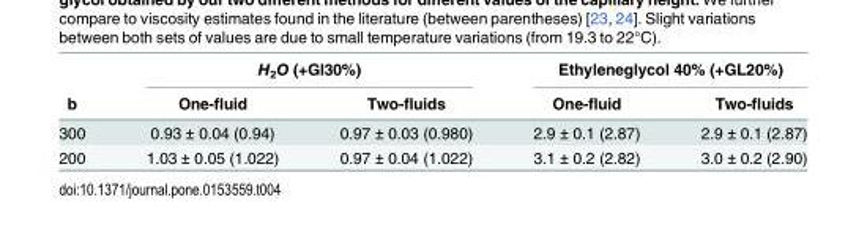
<table><thead><tr><td rowspan="2">b</td><td colspan="2">H<sub>2</sub>O (+Gl30%)</td><td colspan="2">Ethyleneglycol 40% (+GL20%)</td></tr><tr><td>One-fluid</td><td>Two-fluids</td><td>One-fluid</td><td>Two-fluids</td></tr></thead><tbody><tr><td>300</td><td>0.93 ± 0.04 (0.94)</td><td>0.97 ± 0.03 (0.980)</td><td>2.9 ± 0.1 (2.87)</td><td>2.9 ± 0.1 (2.87)</td></tr><tr><td>200</td><td>1.03 ± 0.05 (1.022)</td><td>0.97 ± 0.04 (1.022)</td><td>3.1 ± 0.2 (2.82)</td><td>3.0 ± 0.2 (2.90)</td></tr></tbody></table>